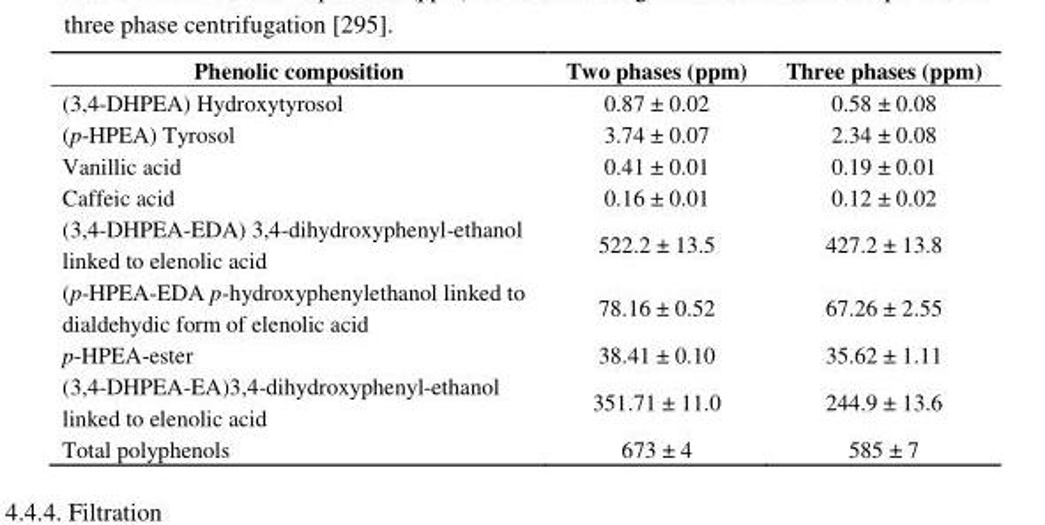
<table><thead><tr><td>Phenolic composition</td><td>Two phases (ppm)</td><td>Three phases (ppm)</td></tr></thead><tbody><tr><td>(3,4-DHPEA) Hydroxytyrosol</td><td>0.87 ± 0.02</td><td>0.58 ± 0.08</td></tr><tr><td>(p-HPEA) Tyrosol</td><td>3.74 ± 0.07</td><td>2.34 ± 0.08</td></tr><tr><td>Vanillic acid</td><td>0.41 ± 0.01</td><td>0.19 ± 0.01</td></tr><tr><td>Caffeic acid</td><td>0.16 ± 0.01</td><td>0.12 ± 0.02</td></tr><tr><td>(3,4-DHPEA-EDA) 3,4-dihydroxyphenyl-ethanol linked to elenolic acid</td><td>522.2 ± 13.5</td><td>427.2 ± 13.8</td></tr><tr><td>(p-HPEA-EDA p-hydroxyphenylethanol linked to dialdehydic form of elenolic acid</td><td>78.16 ± 0.52</td><td>67.26 ± 2.55</td></tr><tr><td>p-HPEA-ester</td><td>38.41 ± 0.10</td><td>35.62 ± 1.11</td></tr><tr><td>(3,4-DHPEA-EA)3,4-dihydroxyphenyl-ethanol linked to elenolic acid</td><td>351.71 ± 11.0</td><td>244.9 ± 13.6</td></tr><tr><td>Total polyphenols</td><td>673 ± 4</td><td>585 ± 7</td></tr></tbody></table>